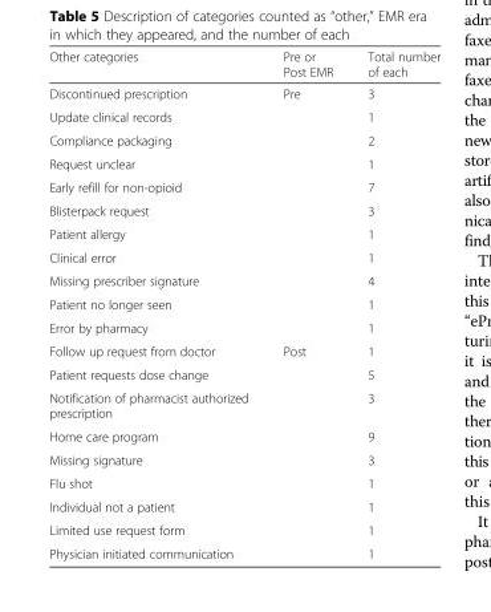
<table><thead><tr><td>Other categories</td><td>Pre or Post EMR</td><td>Total number of each</td></tr></thead><tbody><tr><td>Discontinued prescription</td><td rowspan="11">Pre</td><td>3</td></tr><tr><td>Update clinical records</td><td>1</td></tr><tr><td>Compliance packaging</td><td>2</td></tr><tr><td>Request unclear</td><td>1</td></tr><tr><td>Early refill for non-opioid</td><td>7</td></tr><tr><td>Blisterpack request</td><td>3</td></tr><tr><td>Patient allergy</td><td>1</td></tr><tr><td>Clinical error</td><td>1</td></tr><tr><td>Missing prescriber signature</td><td>4</td></tr><tr><td>Patient no longer seen</td><td>1</td></tr><tr><td>Error by pharmacy</td><td>1</td></tr><tr><td>Follow up request from doctor</td><td rowspan="9">Post</td><td>1</td></tr><tr><td>Patient requests dose change</td><td>5</td></tr><tr><td>Notification of pharmacist authorized prescription</td><td>3</td></tr><tr><td>Home care program</td><td>9</td></tr><tr><td>Missing signature</td><td>3</td></tr><tr><td>Flu shot</td><td>1</td></tr><tr><td>Individual not a patient</td><td>1</td></tr><tr><td>Limited use request form</td><td>1</td></tr><tr><td>Physician initiated communication</td><td>1</td></tr></tbody></table>